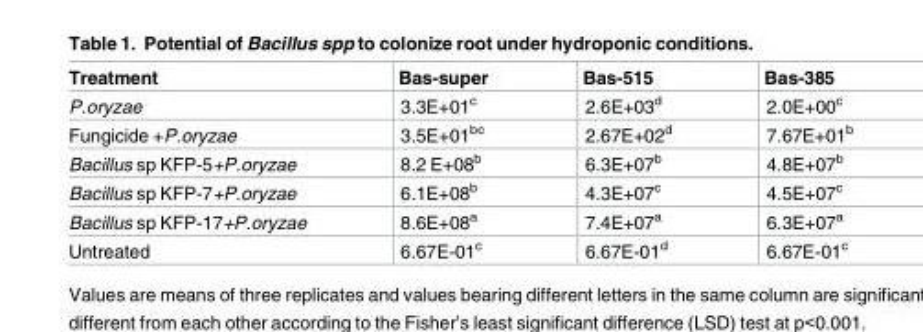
<table><thead><tr><td>Treatment</td><td>Bas-super</td><td>Bas-515</td><td>Bas-385</td></tr></thead><tbody><tr><td>P.oryzae</td><td>3.3E+01<sup>c</sup></td><td>2.6E+03<sup>d</sup></td><td>2.0E+00<sup>c</sup></td></tr><tr><td>Fungicide +P.oryzae</td><td>3.5E+01<sup>bc</sup></td><td>2.67E+02<sup>d</sup></td><td>7.67E+01<sup>b</sup></td></tr><tr><td>Bacillus sp KFP-5+P.oryzae</td><td>8.2 E+08<sup>b</sup></td><td>6.3E+07<sup>b</sup></td><td>4.8E+07<sup>b</sup></td></tr><tr><td>Bacillus sp KFP-7+P.oryzae</td><td>6.1E+08<sup>b</sup></td><td>4.3E+07<sup>c</sup></td><td>4.5E+07<sup>c</sup></td></tr><tr><td>Bacillus sp KFP-17+P.oryzae</td><td>8.6E+08<sup>a</sup></td><td>7.4E+07<sup>a</sup></td><td>6.3E+07<sup>a</sup></td></tr><tr><td>Untreated</td><td>6.67E-01<sup>c</sup></td><td>6.67E-01<sup>d</sup></td><td>6.67E-01<sup>c</sup></td></tr></tbody></table>